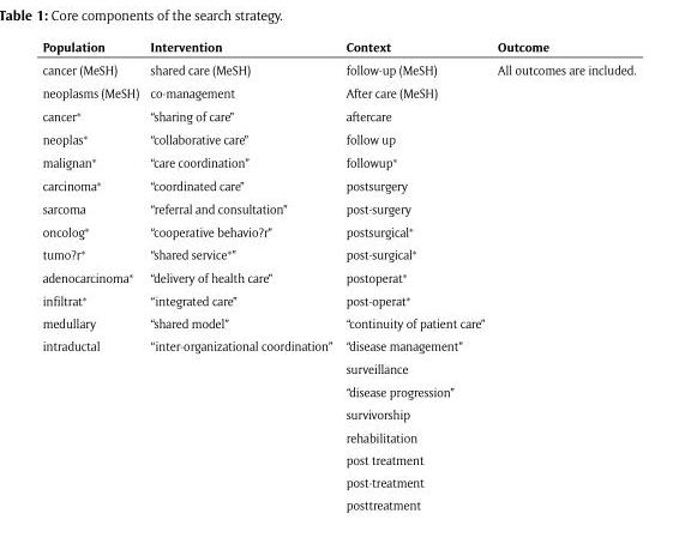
<table><thead><tr><td>Population</td><td>Intervention</td><td>Context</td><td>Outcome</td></tr></thead><tbody><tr><td>cancer (MeSH)</td><td>shared care (MeSH)</td><td>follow-up (MeSH)</td><td>All outcomes are included.</td></tr><tr><td>neoplasms (MeSH)</td><td>co-management</td><td>After care (MeSH)</td><td></td></tr><tr><td>cancer*</td><td>“sharing of care”</td><td>aftercare</td><td></td></tr><tr><td>neoplas*</td><td>“collaborative care”</td><td>follow up</td><td></td></tr><tr><td>malignan*</td><td>“care coordination”</td><td>followup*</td><td></td></tr><tr><td>carcinoma*</td><td>“coordinated care”</td><td>postsurgery</td><td></td></tr><tr><td>sarcoma</td><td>“referral and consultation”</td><td>post-surgery</td><td></td></tr><tr><td>oncolog*</td><td>“cooperative behavio?r”</td><td>postsurgical*</td><td></td></tr><tr><td>tumo?r*</td><td>“shared service*”</td><td>post-surgical*</td><td></td></tr><tr><td>adenocarcinoma*</td><td>“delivery of health care”</td><td>postoperat*</td><td></td></tr><tr><td>infiltrat*</td><td>“integrated care”</td><td>post-operat*</td><td></td></tr><tr><td>medullary</td><td>“shared model”</td><td>“continuity of patient care”</td><td></td></tr><tr><td rowspan="8">intraductal</td><td>“inter-organizational coordination”</td><td>“disease management”</td><td></td></tr><tr><td></td><td>surveillance</td><td></td></tr><tr><td></td><td>“disease progression”</td><td></td></tr><tr><td></td><td>survivorship</td><td></td></tr><tr><td></td><td>rehabilitation</td><td></td></tr><tr><td></td><td>post treatment</td><td></td></tr><tr><td></td><td>post-treatment</td><td></td></tr><tr><td></td><td>posttreatment</td><td></td></tr></tbody></table>